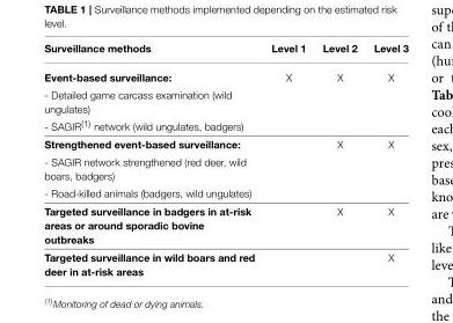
<table><thead><tr><td>Surveillance methods</td><td>Level 1</td><td>Level 2</td><td>Level 3</td></tr></thead><tbody><tr><td>Event-based surveillance:</td><td>X</td><td>X</td><td>X</td></tr><tr><td colspan="4">- Detailed game carcass examination (wild ungulates)</td></tr><tr><td colspan="4">- SAGIR<sup>(1)</sup> network (wild ungulates, badgers)</td></tr><tr><td>Strengthened event-based surveillance:</td><td></td><td>X</td><td>X</td></tr><tr><td colspan="4">- SAGIR network strengthened (red deer, wild boars, badgers)</td></tr><tr><td colspan="4">- Road-killed animals (badgers, wild ungulates)</td></tr><tr><td>Targeted surveillance in badgers in at-risk areas or around sporadic bovine outbreaks</td><td></td><td>X</td><td>X</td></tr><tr><td>Targeted surveillance in wild boars and red deer in at-risk areas</td><td></td><td></td><td>X</td></tr></tbody></table>